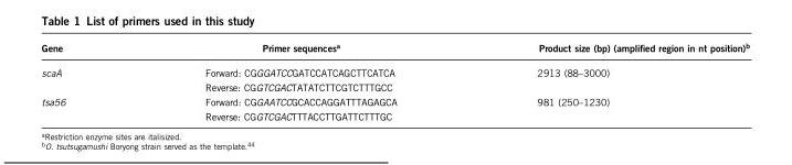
<table><thead><tr><td>Gene</td><td>Primer sequences<sup>a</sup></td><td>Product size (bp) (amplified region in nt position)<sup>b</sup></td></tr></thead><tbody><tr><td rowspan="2">scaA</td><td>Forward: CGGGATCCGATCCATCAGCTTCATCA</td><td>2913 (88–3000)</td></tr><tr><td>Reverse: CGGTCGACTATATCTTCGTCTTTGCC</td><td></td></tr><tr><td rowspan="2">tsa56</td><td>Forward: CGGAATCCGCACCAGGATTTAGAGCA</td><td>981 (250–1230)</td></tr><tr><td>Reverse: CGGTCGACTTTACCTTGATTCTTTGC</td><td></td></tr></tbody></table>